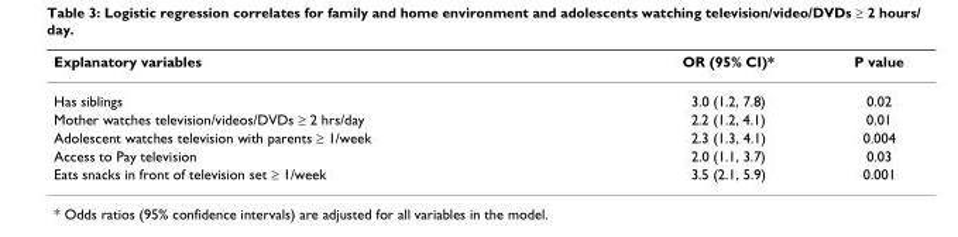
<table><thead><tr><td>Explanatory variables</td><td>OR (95% CI)*</td><td>P value</td></tr></thead><tbody><tr><td>Has siblings</td><td>3.0 (1.2, 7.8)</td><td>0.02</td></tr><tr><td>Mother watches television/videos/DVDs ≥ 2 hrs/day</td><td>2.2 (1.2, 4.1)</td><td>0.01</td></tr><tr><td>Adolescent watches television with parents ≥ 1/week</td><td>2.3 (1.3, 4.1)</td><td>0.004</td></tr><tr><td>Access to Pay television</td><td>2.0 (1.1, 3.7)</td><td>0.03</td></tr><tr><td>Eats snacks in front of television set ≥ 1/week</td><td>3.5 (2.1, 5.9)</td><td>0.001</td></tr></tbody></table>